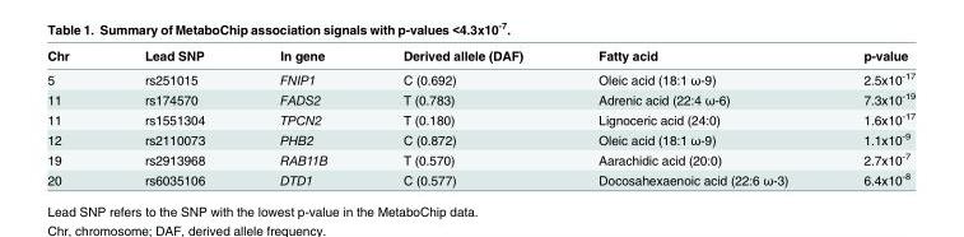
<table><thead><tr><td>Chr</td><td>Lead SNP</td><td>In gene</td><td>Derived allele (DAF)</td><td>Fatty acid</td><td>p-value</td></tr></thead><tbody><tr><td>5</td><td>rs251015</td><td>FNIP1</td><td>C (0.692)</td><td>Oleic acid (18:1 ω-9)</td><td>2.5x10<sup>-17</sup></td></tr><tr><td>11</td><td>rs174570</td><td>FADS2</td><td>T (0.783)</td><td>Adrenic acid (22:4 ω-6)</td><td>7.3x10<sup>-19</sup></td></tr><tr><td>11</td><td>rs1551304</td><td>TPCN2</td><td>T (0.180)</td><td>Lignoceric acid (24:0)</td><td>1.6x10<sup>-17</sup></td></tr><tr><td>12</td><td>rs2110073</td><td>PHB2</td><td>C (0.872)</td><td>Oleic acid (18:1 ω-9)</td><td>1.1x10<sup>-9</sup></td></tr><tr><td>19</td><td>rs2913968</td><td>RAB11B</td><td>T (0.570)</td><td>Aarachidic acid (20:0)</td><td>2.7x10<sup>-7</sup></td></tr><tr><td>20</td><td>rs6035106</td><td>DTD1</td><td>C (0.577)</td><td>Docosahexaenoic acid (22:6 ω-3)</td><td>6.4x10<sup>-8</sup></td></tr></tbody></table>